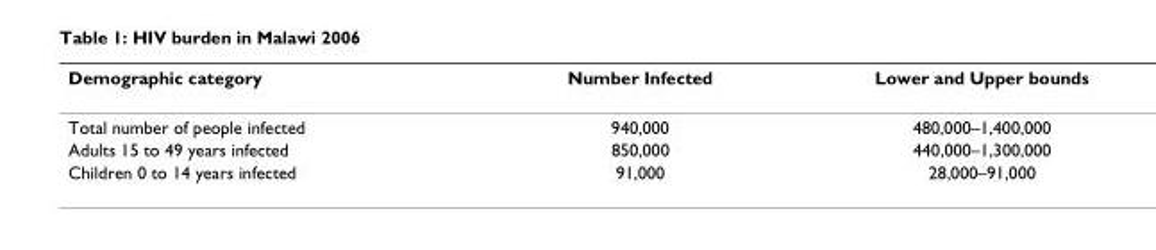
<table><thead><tr><td>Demographic category</td><td>Number Infected</td><td>Lower and Upper bounds</td></tr></thead><tbody><tr><td>Total number of people infected</td><td>940,000</td><td>480,000–1,400,000</td></tr><tr><td>Adults 15 to 49 years infected</td><td>850,000</td><td>440,000–1,300,000</td></tr><tr><td>Children 0 to 14 years infected</td><td>91,000</td><td>28,000–91,000</td></tr></tbody></table>